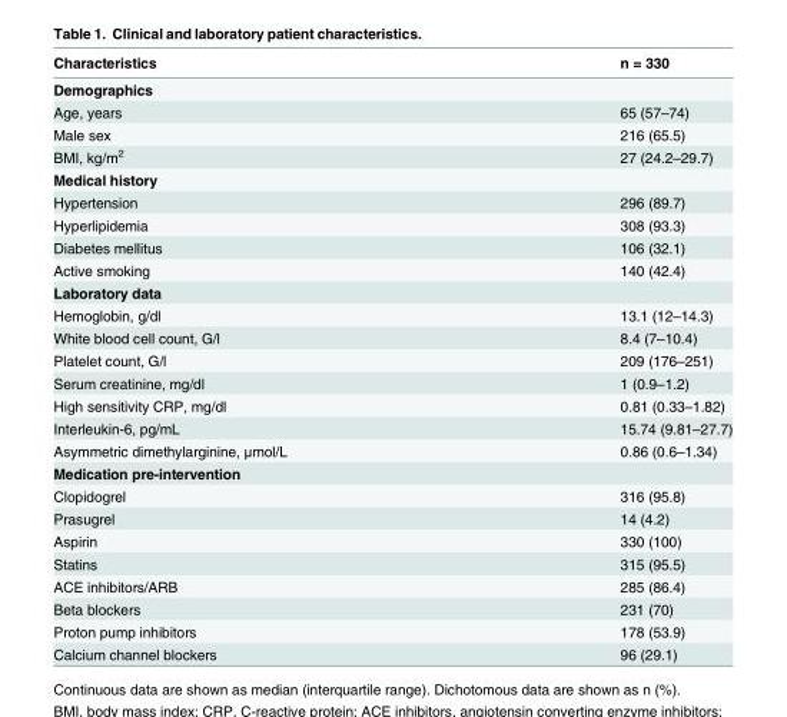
<table><thead><tr><td>Characteristics</td><td>n = 330</td></tr></thead><tbody><tr><td colspan="2">Demographics</td></tr><tr><td>Age, years</td><td>65 (57–74)</td></tr><tr><td>Male sex</td><td>216 (65.5)</td></tr><tr><td>BMI, kg/m<sup>2</sup></td><td>27 (24.2–29.7)</td></tr><tr><td colspan="2">Medical history</td></tr><tr><td>Hypertension</td><td>296 (89.7)</td></tr><tr><td>Hyperlipidemia</td><td>308 (93.3)</td></tr><tr><td>Diabetes mellitus</td><td>106 (32.1)</td></tr><tr><td>Active smoking</td><td>140 (42.4)</td></tr><tr><td colspan="2">Laboratory data</td></tr><tr><td>Hemoglobin, g/dl</td><td>13.1 (12–14.3)</td></tr><tr><td>White blood cell count, G/l</td><td>8.4 (7–10.4)</td></tr><tr><td>Platelet count, G/l</td><td>209 (176–251)</td></tr><tr><td>Serum creatinine, mg/dl</td><td>1 (0.9–1.2)</td></tr><tr><td>High sensitivity CRP, mg/dl</td><td>0.81 (0.33–1.82)</td></tr><tr><td>Interleukin-6, pg/mL</td><td>15.74 (9.81–27.7)</td></tr><tr><td>Asymmetric dimethylarginine, μmol/L</td><td>0.86 (0.6–1.34)</td></tr><tr><td colspan="2">Medication pre-intervention</td></tr><tr><td>Clopidogrel</td><td>316 (95.8)</td></tr><tr><td>Prasugrel</td><td>14 (4.2)</td></tr><tr><td>Aspirin</td><td>330 (100)</td></tr><tr><td>Statins</td><td>315 (95.5)</td></tr><tr><td>ACE inhibitors/ARB</td><td>285 (86.4)</td></tr><tr><td>Beta blockers</td><td>231 (70)</td></tr><tr><td>Proton pump inhibitors</td><td>178 (53.9)</td></tr><tr><td>Calcium channel blockers</td><td>96 (29.1)</td></tr></tbody></table>